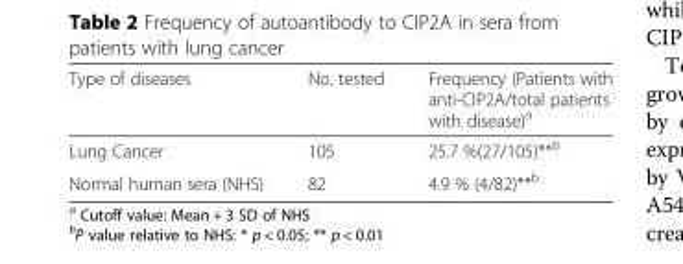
<table><thead><tr><td>Type of diseases</td><td>No. tested</td><td>Frequency (Patients with anti-CIP2A/total patients with disease)<sup>a</sup></td></tr></thead><tbody><tr><td>Lung Cancer</td><td>105</td><td>25.7 %(27/105)**<sup>b</sup></td></tr><tr><td>Normal human sera (NHS)</td><td>82</td><td>4.9 % (4/82)**<sup>b</sup></td></tr></tbody></table>